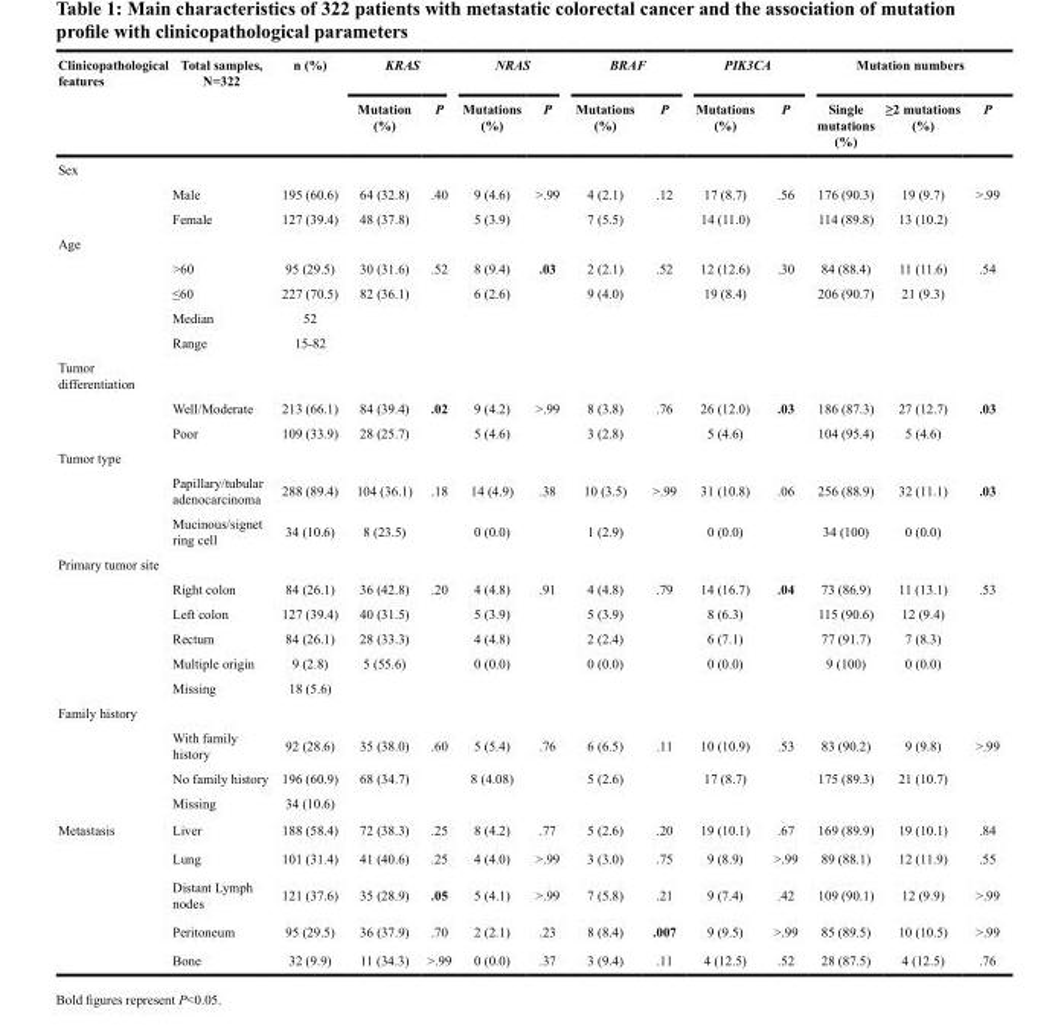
<table><thead><tr><td rowspan="2">Clinicopathological features</td><td rowspan="2">Total samples, N=322</td><td rowspan="2">n (%)</td><td colspan="2">KRAS</td><td colspan="2">NRAS</td><td colspan="2">BRAF</td><td colspan="2">PIK3CA</td><td colspan="3">Mutation numbers</td></tr><tr><td>Mutation (%)</td><td>P</td><td>Mutations (%)</td><td>P</td><td>Mutations (%)</td><td>P</td><td>Mutations (%)</td><td>P</td><td>Single mutations (%)</td><td>≥2 mutations (%)</td><td>P</td></tr></thead><tbody><tr><td colspan="14">Sex</td></tr><tr><td></td><td>Male</td><td>195 (60.6)</td><td>64 (32.8)</td><td>.40</td><td>9 (4.6)</td><td>&gt;.99</td><td>4 (2.1)</td><td>.12</td><td>17 (8.7)</td><td>.56</td><td>176 (90.3)</td><td>19 (9.7)</td><td>&gt;.99</td></tr><tr><td></td><td>Female</td><td>127 (39.4)</td><td>48 (37.8)</td><td></td><td>5 (3.9)</td><td></td><td>7 (5.5)</td><td></td><td>14 (11.0)</td><td></td><td>114 (89.8)</td><td>13 (10.2)</td><td></td></tr><tr><td colspan="14">Age</td></tr><tr><td></td><td>&gt;60</td><td>95 (29.5)</td><td>30 (31.6)</td><td>.52</td><td>8 (9.4)</td><td>.03</td><td>2 (2.1)</td><td>.52</td><td>12 (12.6)</td><td>.30</td><td>84 (88.4)</td><td>11 (11.6)</td><td>.54</td></tr><tr><td></td><td>≤60</td><td>227 (70.5)</td><td>82 (36.1)</td><td></td><td>6 (2.6)</td><td></td><td>9 (4.0)</td><td></td><td>19 (8.4)</td><td></td><td>206 (90.7)</td><td>21 (9.3)</td><td></td></tr><tr><td></td><td>Median</td><td>52</td><td></td><td></td><td></td><td></td><td></td><td></td><td></td><td></td><td></td><td></td><td></td></tr><tr><td></td><td>Range</td><td>15-82</td><td></td><td></td><td></td><td></td><td></td><td></td><td></td><td></td><td></td><td></td><td></td></tr><tr><td colspan="14">Tumor differentiation</td></tr><tr><td></td><td>Well/Moderate</td><td>213 (66.1)</td><td>84 (39.4)</td><td>.02</td><td>9 (4.2)</td><td>&gt;.99</td><td>8 (3.8)</td><td>.76</td><td>26 (12.0)</td><td>.03</td><td>186 (87.3)</td><td>27 (12.7)</td><td>.03</td></tr><tr><td></td><td>Poor</td><td>109 (33.9)</td><td>28 (25.7)</td><td></td><td>5 (4.6)</td><td></td><td>3 (2.8)</td><td></td><td>5 (4.6)</td><td></td><td>104 (95.4)</td><td>5 (4.6)</td><td></td></tr><tr><td colspan="14">Tumor type</td></tr><tr><td></td><td>Papillary/tubular adenocarcinoma</td><td>288 (89.4)</td><td>104 (36.1)</td><td>.18</td><td>14 (4.9)</td><td>.38</td><td>10 (3.5)</td><td>&gt;.99</td><td>31 (10.8)</td><td>.06</td><td>256 (88.9)</td><td>32 (11.1)</td><td>.03</td></tr><tr><td></td><td>Mucinous/signet ring cell</td><td>34 (10.6)</td><td>8 (23.5)</td><td></td><td>0 (0.0)</td><td></td><td>1 (2.9)</td><td></td><td>0 (0.0)</td><td></td><td>34 (100)</td><td>0 (0.0)</td><td></td></tr><tr><td colspan="14">Primary tumor site</td></tr><tr><td></td><td>Right colon</td><td>84 (26.1)</td><td>36 (42.8)</td><td>.20</td><td>4 (4.8)</td><td>.91</td><td>4 (4.8)</td><td>.79</td><td>14 (16.7)</td><td>.04</td><td>73 (86.9)</td><td>11 (13.1)</td><td>.53</td></tr><tr><td></td><td>Left colon</td><td>127 (39.4)</td><td>40 (31.5)</td><td></td><td>5 (3.9)</td><td></td><td>5 (3.9)</td><td></td><td>8 (6.3)</td><td></td><td>115 (90.6)</td><td>12 (9.4)</td><td></td></tr><tr><td></td><td>Rectum</td><td>84 (26.1)</td><td>28 (33.3)</td><td></td><td>4 (4.8)</td><td></td><td>2 (2.4)</td><td></td><td>6 (7.1)</td><td></td><td>77 (91.7)</td><td>7 (8.3)</td><td></td></tr><tr><td></td><td>Multiple origin</td><td>9 (2.8)</td><td>5 (55.6)</td><td></td><td>0 (0.0)</td><td></td><td>0 (0.0)</td><td></td><td>0 (0.0)</td><td></td><td>9 (100)</td><td>0 (0.0)</td><td></td></tr><tr><td></td><td>Missing</td><td>18 (5.6)</td><td></td><td></td><td></td><td></td><td></td><td></td><td></td><td></td><td></td><td></td><td></td></tr><tr><td colspan="14">Family history</td></tr><tr><td></td><td>With family history</td><td>92 (28.6)</td><td>35 (38.0)</td><td>.60</td><td>5 (5.4)</td><td>.76</td><td>6 (6.5)</td><td>.11</td><td>10 (10.9)</td><td>.53</td><td>83 (90.2)</td><td>9 (9.8)</td><td>&gt;.99</td></tr><tr><td></td><td>No family history</td><td>196 (60.9)</td><td>68 (34.7)</td><td></td><td>8 (4.08)</td><td></td><td>5 (2.6)</td><td></td><td>17 (8.7)</td><td></td><td>175 (89.3)</td><td>21 (10.7)</td><td></td></tr><tr><td></td><td>Missing</td><td>34 (10.6)</td><td></td><td></td><td></td><td></td><td></td><td></td><td></td><td></td><td></td><td></td><td></td></tr><tr><td rowspan="5">Metastasis</td><td>Liver</td><td>188 (58.4)</td><td>72 (38.3)</td><td>.25</td><td>8 (4.2)</td><td>.77</td><td>5 (2.6)</td><td>.20</td><td>19 (10.1)</td><td>.67</td><td>169 (89.9)</td><td>19 (10.1)</td><td>.84</td></tr><tr><td>Lung</td><td>101 (31.4)</td><td>41 (40.6)</td><td>.25</td><td>4 (4.0)</td><td>&gt;.99</td><td>3 (3.0)</td><td>.75</td><td>9 (8.9)</td><td>&gt;.99</td><td>89 (88.1)</td><td>12 (11.9)</td><td>.55</td></tr><tr><td>Distant Lymph nodes</td><td>121 (37.6)</td><td>35 (28.9)</td><td>.05</td><td>5 (4.1)</td><td>&gt;.99</td><td>7 (5.8)</td><td>.21</td><td>9 (7.4)</td><td>.42</td><td>109 (90.1)</td><td>12 (9.9)</td><td>&gt;.99</td></tr><tr><td>Peritoneum</td><td>95 (29.5)</td><td>36 (37.9)</td><td>.70</td><td>2 (2.1)</td><td>.23</td><td>8 (8.4)</td><td>.007</td><td>9 (9.5)</td><td>&gt;.99</td><td>85 (89.5)</td><td>10 (10.5)</td><td>&gt;.99</td></tr><tr><td>Bone</td><td>32 (9.9)</td><td>11 (34.3)</td><td>&gt;.99</td><td>0 (0.0)</td><td>.37</td><td>3 (9.4)</td><td>.11</td><td>4 (12.5)</td><td>.52</td><td>28 (87.5)</td><td>4 (12.5)</td><td>.76</td></tr></tbody></table>